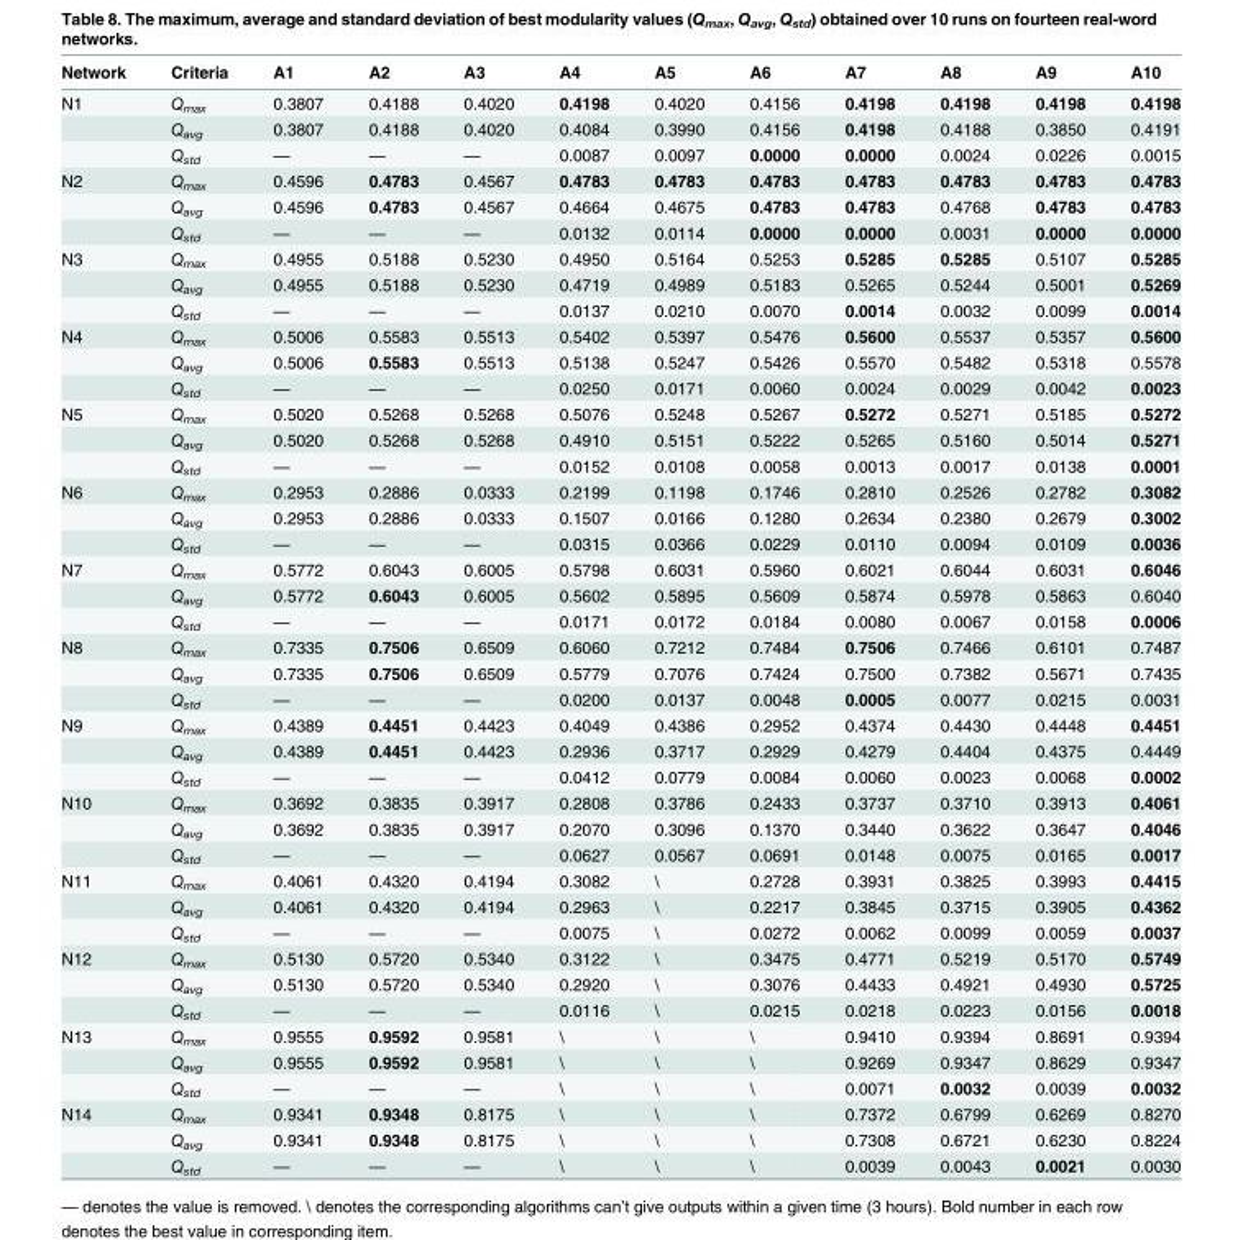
<table><thead><tr><td>Network</td><td>Criteria</td><td>A1</td><td>A2</td><td>A3</td><td>A4</td><td>A5</td><td>A6</td><td>A7</td><td>A8</td><td>A9</td><td>A10</td></tr></thead><tbody><tr><td rowspan="3">N1</td><td>Q<sub>max</sub></td><td>0.3807</td><td>0.4188</td><td>0.4020</td><td>0.4198</td><td>0.4020</td><td>0.4156</td><td>0.4198</td><td>0.4198</td><td>0.4198</td><td>0.4198</td></tr><tr><td>Q<sub>avg</sub></td><td>0.3807</td><td>0.4188</td><td>0.4020</td><td>0.4084</td><td>0.3990</td><td>0.4156</td><td>0.4198</td><td>0.4188</td><td>0.3850</td><td>0.4191</td></tr><tr><td>Q<sub>std</sub></td><td>—</td><td>—</td><td>—</td><td>0.0087</td><td>0.0097</td><td>0.0000</td><td>0.0000</td><td>0.0024</td><td>0.0226</td><td>0.0015</td></tr><tr><td rowspan="3">N2</td><td>Q<sub>max</sub></td><td>0.4596</td><td>0.4783</td><td>0.4567</td><td>0.4783</td><td>0.4783</td><td>0.4783</td><td>0.4783</td><td>0.4783</td><td>0.4783</td><td>0.4783</td></tr><tr><td>Q<sub>avg</sub></td><td>0.4596</td><td>0.4783</td><td>0.4567</td><td>0.4664</td><td>0.4675</td><td>0.4783</td><td>0.4783</td><td>0.4768</td><td>0.4783</td><td>0.4783</td></tr><tr><td>Q<sub>std</sub></td><td>—</td><td>—</td><td>—</td><td>0.0132</td><td>0.0114</td><td>0.0000</td><td>0.0000</td><td>0.0031</td><td>0.0000</td><td>0.0000</td></tr><tr><td rowspan="3">N3</td><td>Q<sub>max</sub></td><td>0.4955</td><td>0.5188</td><td>0.5230</td><td>0.4950</td><td>0.5164</td><td>0.5253</td><td>0.5285</td><td>0.5285</td><td>0.5107</td><td>0.5285</td></tr><tr><td>Q<sub>avg</sub></td><td>0.4955</td><td>0.5188</td><td>0.5230</td><td>0.4719</td><td>0.4989</td><td>0.5183</td><td>0.5265</td><td>0.5244</td><td>0.5001</td><td>0.5269</td></tr><tr><td>Q<sub>std</sub></td><td>—</td><td>—</td><td>—</td><td>0.0137</td><td>0.0210</td><td>0.0070</td><td>0.0014</td><td>0.0032</td><td>0.0099</td><td>0.0014</td></tr><tr><td rowspan="3">N4</td><td>Q<sub>max</sub></td><td>0.5006</td><td>0.5583</td><td>0.5513</td><td>0.5402</td><td>0.5397</td><td>0.5476</td><td>0.5600</td><td>0.5537</td><td>0.5357</td><td>0.5600</td></tr><tr><td>Q<sub>avg</sub></td><td>0.5006</td><td>0.5583</td><td>0.5513</td><td>0.5138</td><td>0.5247</td><td>0.5426</td><td>0.5570</td><td>0.5482</td><td>0.5318</td><td>0.5578</td></tr><tr><td>Q<sub>std</sub></td><td>—</td><td>—</td><td>—</td><td>0.0250</td><td>0.0171</td><td>0.0060</td><td>0.0024</td><td>0.0029</td><td>0.0042</td><td>0.0023</td></tr><tr><td rowspan="3">N5</td><td>Q<sub>max</sub></td><td>0.5020</td><td>0.5268</td><td>0.5268</td><td>0.5076</td><td>0.5248</td><td>0.5267</td><td>0.5272</td><td>0.5271</td><td>0.5185</td><td>0.5272</td></tr><tr><td>Q<sub>avg</sub></td><td>0.5020</td><td>0.5268</td><td>0.5268</td><td>0.4910</td><td>0.5151</td><td>0.5222</td><td>0.5265</td><td>0.5160</td><td>0.5014</td><td>0.5271</td></tr><tr><td>Q<sub>std</sub></td><td>—</td><td>—</td><td>—</td><td>0.0152</td><td>0.0108</td><td>0.0058</td><td>0.0013</td><td>0.0017</td><td>0.0138</td><td>0.0001</td></tr><tr><td rowspan="3">N6</td><td>Q<sub>max</sub></td><td>0.2953</td><td>0.2886</td><td>0.0333</td><td>0.2199</td><td>0.1198</td><td>0.1746</td><td>0.2810</td><td>0.2526</td><td>0.2782</td><td>0.3082</td></tr><tr><td>Q<sub>avg</sub></td><td>0.2953</td><td>0.2886</td><td>0.0333</td><td>0.1507</td><td>0.0166</td><td>0.1280</td><td>0.2634</td><td>0.2380</td><td>0.2679</td><td>0.3002</td></tr><tr><td>Q<sub>std</sub></td><td>—</td><td>—</td><td>—</td><td>0.0315</td><td>0.0366</td><td>0.0229</td><td>0.0110</td><td>0.0094</td><td>0.0109</td><td>0.0036</td></tr><tr><td rowspan="3">N7</td><td>Q<sub>max</sub></td><td>0.5772</td><td>0.6043</td><td>0.6005</td><td>0.5798</td><td>0.6031</td><td>0.5960</td><td>0.6021</td><td>0.6044</td><td>0.6031</td><td>0.6046</td></tr><tr><td>Q<sub>avg</sub></td><td>0.5772</td><td>0.6043</td><td>0.6005</td><td>0.5602</td><td>0.5895</td><td>0.5609</td><td>0.5874</td><td>0.5978</td><td>0.5863</td><td>0.6040</td></tr><tr><td>Q<sub>std</sub></td><td>—</td><td>—</td><td>—</td><td>0.0171</td><td>0.0172</td><td>0.0184</td><td>0.0080</td><td>0.0067</td><td>0.0158</td><td>0.0006</td></tr><tr><td rowspan="3">N8</td><td>Q<sub>max</sub></td><td>0.7335</td><td>0.7506</td><td>0.6509</td><td>0.6060</td><td>0.7212</td><td>0.7484</td><td>0.7506</td><td>0.7466</td><td>0.6101</td><td>0.7487</td></tr><tr><td>Q<sub>avg</sub></td><td>0.7335</td><td>0.7506</td><td>0.6509</td><td>0.5779</td><td>0.7076</td><td>0.7424</td><td>0.7500</td><td>0.7382</td><td>0.5671</td><td>0.7435</td></tr><tr><td>Q<sub>std</sub></td><td>—</td><td>—</td><td>—</td><td>0.0200</td><td>0.0137</td><td>0.0048</td><td>0.0005</td><td>0.0077</td><td>0.0215</td><td>0.0031</td></tr><tr><td rowspan="3">N9</td><td>Q<sub>max</sub></td><td>0.4389</td><td>0.4451</td><td>0.4423</td><td>0.4049</td><td>0.4386</td><td>0.2952</td><td>0.4374</td><td>0.4430</td><td>0.4448</td><td>0.4451</td></tr><tr><td>Q<sub>avg</sub></td><td>0.4389</td><td>0.4451</td><td>0.4423</td><td>0.2936</td><td>0.3717</td><td>0.2929</td><td>0.4279</td><td>0.4404</td><td>0.4375</td><td>0.4449</td></tr><tr><td>Q<sub>std</sub></td><td>—</td><td>—</td><td>—</td><td>0.0412</td><td>0.0779</td><td>0.0084</td><td>0.0060</td><td>0.0023</td><td>0.0068</td><td>0.0002</td></tr><tr><td rowspan="3">N10</td><td>Q<sub>max</sub></td><td>0.3692</td><td>0.3835</td><td>0.3917</td><td>0.2808</td><td>0.3786</td><td>0.2433</td><td>0.3737</td><td>0.3710</td><td>0.3913</td><td>0.4061</td></tr><tr><td>Q<sub>avg</sub></td><td>0.3692</td><td>0.3835</td><td>0.3917</td><td>0.2070</td><td>0.3096</td><td>0.1370</td><td>0.3440</td><td>0.3622</td><td>0.3647</td><td>0.4046</td></tr><tr><td>Q<sub>std</sub></td><td>—</td><td>—</td><td>—</td><td>0.0627</td><td>0.0567</td><td>0.0691</td><td>0.0148</td><td>0.0075</td><td>0.0165</td><td>0.0017</td></tr><tr><td rowspan="3">N11</td><td>Q<sub>max</sub></td><td>0.4061</td><td>0.4320</td><td>0.4194</td><td>0.3082</td><td>\</td><td>0.2728</td><td>0.3931</td><td>0.3825</td><td>0.3993</td><td>0.4415</td></tr><tr><td>Q<sub>avg</sub></td><td>0.4061</td><td>0.4320</td><td>0.4194</td><td>0.2963</td><td>\</td><td>0.2217</td><td>0.3845</td><td>0.3715</td><td>0.3905</td><td>0.4362</td></tr><tr><td>Q<sub>std</sub></td><td>—</td><td>—</td><td>—</td><td>0.0075</td><td>\</td><td>0.0272</td><td>0.0062</td><td>0.0099</td><td>0.0059</td><td>0.0037</td></tr><tr><td rowspan="3">N12</td><td>Q<sub>max</sub></td><td>0.5130</td><td>0.5720</td><td>0.5340</td><td>0.3122</td><td>\</td><td>0.3475</td><td>0.4771</td><td>0.5219</td><td>0.5170</td><td>0.5749</td></tr><tr><td>Q<sub>avg</sub></td><td>0.5130</td><td>0.5720</td><td>0.5340</td><td>0.2920</td><td>\</td><td>0.3076</td><td>0.4433</td><td>0.4921</td><td>0.4930</td><td>0.5725</td></tr><tr><td>Q<sub>std</sub></td><td>—</td><td>—</td><td>—</td><td>0.0116</td><td>\</td><td>0.0215</td><td>0.0218</td><td>0.0223</td><td>0.0156</td><td>0.0018</td></tr><tr><td rowspan="3">N13</td><td>Q<sub>max</sub></td><td>0.9555</td><td>0.9592</td><td>0.9581</td><td>\</td><td>\</td><td>\</td><td>0.9410</td><td>0.9394</td><td>0.8691</td><td>0.9394</td></tr><tr><td>Q<sub>avg</sub></td><td>0.9555</td><td>0.9592</td><td>0.9581</td><td>\</td><td>\</td><td>\</td><td>0.9269</td><td>0.9347</td><td>0.8629</td><td>0.9347</td></tr><tr><td>Q<sub>std</sub></td><td>—</td><td>—</td><td>—</td><td>\</td><td>\</td><td>\</td><td>0.0071</td><td>0.0032</td><td>0.0039</td><td>0.0032</td></tr><tr><td rowspan="3">N14</td><td>Q<sub>max</sub></td><td>0.9341</td><td>0.9348</td><td>0.8175</td><td>\</td><td>\</td><td>\</td><td>0.7372</td><td>0.6799</td><td>0.6269</td><td>0.8270</td></tr><tr><td>Q<sub>avg</sub></td><td>0.9341</td><td>0.9348</td><td>0.8175</td><td>\</td><td>\</td><td>\</td><td>0.7308</td><td>0.6721</td><td>0.6230</td><td>0.8224</td></tr><tr><td>Q<sub>std</sub></td><td>—</td><td>—</td><td>—</td><td>\</td><td>\</td><td>\</td><td>0.0039</td><td>0.0043</td><td>0.0021</td><td>0.0030</td></tr></tbody></table>